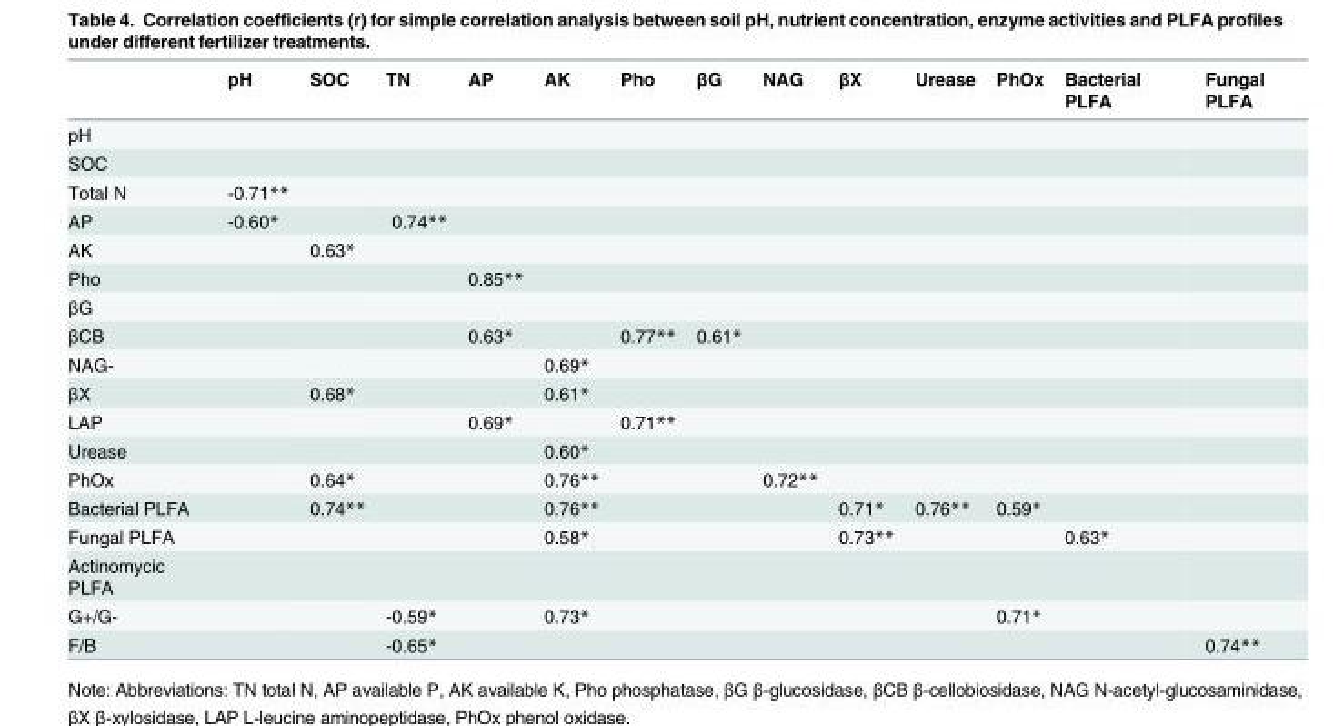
<table><thead><tr><td></td><td>pH</td><td>SOC</td><td>TN</td><td>AP</td><td>AK</td><td>Pho</td><td>βG</td><td>NAG</td><td>βX</td><td>Urease</td><td>PhOx</td><td>Bacterial PLFA</td><td>Fungal PLFA</td></tr></thead><tbody><tr><td colspan="14">pH</td></tr><tr><td colspan="14">SOC</td></tr><tr><td>Total N</td><td>-0.71**</td><td></td><td></td><td></td><td></td><td></td><td></td><td></td><td></td><td></td><td></td><td></td><td></td></tr><tr><td>AP</td><td>-0.60*</td><td></td><td>0.74**</td><td></td><td></td><td></td><td></td><td></td><td></td><td></td><td></td><td></td><td></td></tr><tr><td>AK</td><td></td><td>0.63*</td><td></td><td></td><td></td><td></td><td></td><td></td><td></td><td></td><td></td><td></td><td></td></tr><tr><td>Pho</td><td></td><td></td><td></td><td>0.85**</td><td></td><td></td><td></td><td></td><td></td><td></td><td></td><td></td><td></td></tr><tr><td colspan="14">βG</td></tr><tr><td>βCB</td><td></td><td></td><td></td><td>0.63*</td><td></td><td>0.77**</td><td>0.61*</td><td></td><td></td><td></td><td></td><td></td><td></td></tr><tr><td>NAG-</td><td></td><td></td><td></td><td></td><td>0.69*</td><td></td><td></td><td></td><td></td><td></td><td></td><td></td><td></td></tr><tr><td>βX</td><td></td><td>0.68*</td><td></td><td></td><td>0.61*</td><td></td><td></td><td></td><td></td><td></td><td></td><td></td><td></td></tr><tr><td>LAP</td><td></td><td></td><td></td><td>0.69*</td><td></td><td>0.71**</td><td></td><td></td><td></td><td></td><td></td><td></td><td></td></tr><tr><td>Urease</td><td></td><td></td><td></td><td></td><td>0.60*</td><td></td><td></td><td></td><td></td><td></td><td></td><td></td><td></td></tr><tr><td>PhOx</td><td></td><td>0.64*</td><td></td><td></td><td>0.76**</td><td></td><td></td><td>0.72**</td><td></td><td></td><td></td><td></td><td></td></tr><tr><td>Bacterial PLFA</td><td></td><td>0.74**</td><td></td><td></td><td>0.76**</td><td></td><td></td><td></td><td>0.71*</td><td>0.76**</td><td>0.59*</td><td></td><td></td></tr><tr><td>Fungal PLFA</td><td></td><td></td><td></td><td></td><td>0.58*</td><td></td><td></td><td></td><td>0.73**</td><td></td><td></td><td>0.63*</td><td></td></tr><tr><td colspan="14">Actinomycic PLFA</td></tr><tr><td>G+/G-</td><td></td><td></td><td>-0.59*</td><td></td><td>0.73*</td><td></td><td></td><td></td><td></td><td></td><td>0.71*</td><td></td><td></td></tr><tr><td>F/B</td><td></td><td></td><td>-0.65*</td><td></td><td></td><td></td><td></td><td></td><td></td><td></td><td></td><td></td><td>0.74**</td></tr></tbody></table>